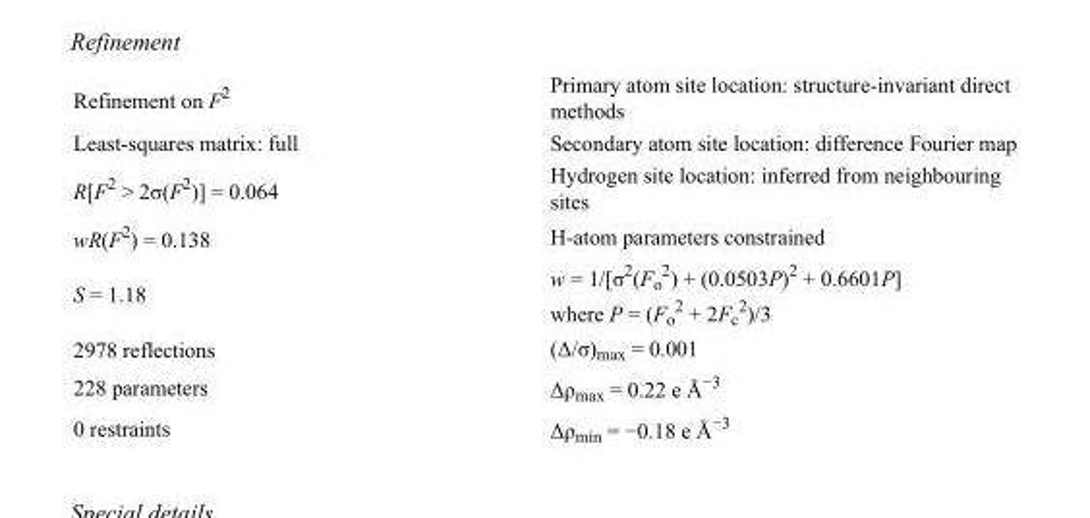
<table><tbody><tr><td>Refinement on F<sup>2</sup></td><td>Primary atom site location: structure-invariant direct methods</td></tr><tr><td>Least-squares matrix: full</td><td>Secondary atom site location: difference Fourier map</td></tr><tr><td>R[F<sup>2</sup> &gt; 2σ(F<sup>2</sup>)] = 0.064</td><td>Hydrogen site location: inferred from neighbouring sites</td></tr><tr><td>wR(F<sup>2</sup>) = 0.138</td><td>H-atom parameters constrained</td></tr><tr><td>S = 1.18</td><td>w = 1/[σ<sup>2</sup>(F<sub>o</sub> <sup>2</sup>) + (0.0503P)<sup>2</sup> + 0.6601P] where P = (F<sub>o</sub> <sup>2</sup> + 2F<sub>c</sub> <sup>2</sup>)/3</td></tr><tr><td>2978 reflections</td><td>(Δ/σ)<sub>max</sub> = 0.001</td></tr><tr><td>228 parameters</td><td>Δρ<sub>max</sub> = 0.22 e Å<sup>−3</sup></td></tr><tr><td>0 restraints</td><td>Δρ<sub>min</sub> = −0.18 e Å<sup>−3</sup></td></tr></tbody></table>